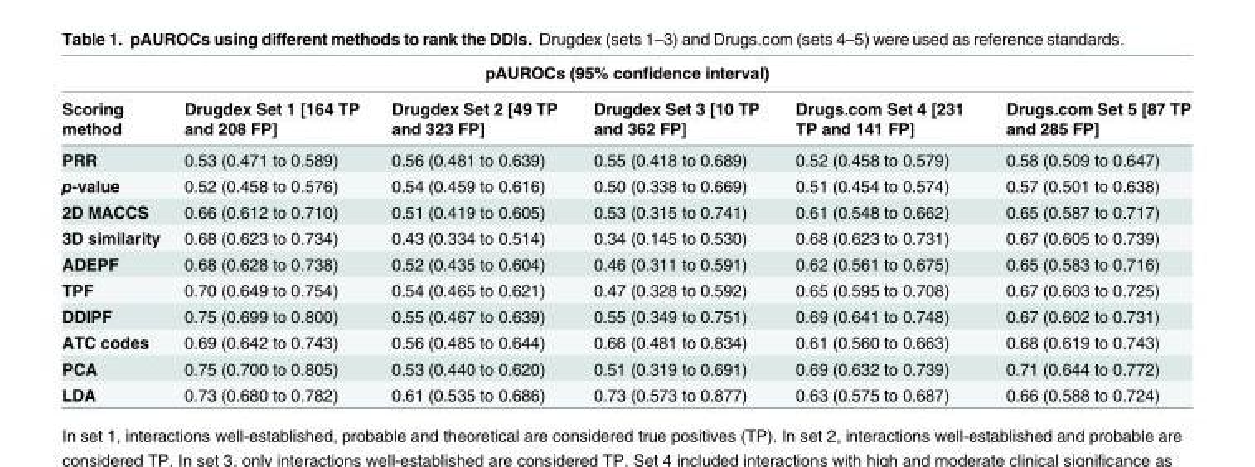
<table><thead><tr><td colspan="6">pAUROCs (95% confidence interval)</td></tr><tr><td>Scoring method</td><td>Drugdex Set 1 [164 TP and 208 FP]</td><td>Drugdex Set 2 [49 TP and 323 FP]</td><td>Drugdex Set 3 [10 TP and 362 FP]</td><td>Drugs.com Set 4 [231 TP and 141 FP]</td><td>Drugs.com Set 5 [87 TP and 285 FP]</td></tr></thead><tbody><tr><td>PRR</td><td>0.53 (0.471 to 0.589)</td><td>0.56 (0.481 to 0.639)</td><td>0.55 (0.418 to 0.689)</td><td>0.52 (0.458 to 0.579)</td><td>0.58 (0.509 to 0.647)</td></tr><tr><td>p-value</td><td>0.52 (0.458 to 0.576)</td><td>0.54 (0.459 to 0.616)</td><td>0.50 (0.338 to 0.669)</td><td>0.51 (0.454 to 0.574)</td><td>0.57 (0.501 to 0.638)</td></tr><tr><td>2D MACCS</td><td>0.66 (0.612 to 0.710)</td><td>0.51 (0.419 to 0.605)</td><td>0.53 (0.315 to 0.741)</td><td>0.61 (0.548 to 0.662)</td><td>0.65 (0.587 to 0.717)</td></tr><tr><td>3D similarity</td><td>0.68 (0.623 to 0.734)</td><td>0.43 (0.334 to 0.514)</td><td>0.34 (0.145 to 0.530)</td><td>0.68 (0.623 to 0.731)</td><td>0.67 (0.605 to 0.739)</td></tr><tr><td>ADEPF</td><td>0.68 (0.628 to 0.738)</td><td>0.52 (0.435 to 0.604)</td><td>0.46 (0.311 to 0.591)</td><td>0.62 (0.561 to 0.675)</td><td>0.65 (0.583 to 0.716)</td></tr><tr><td>TPF</td><td>0.70 (0.649 to 0.754)</td><td>0.54 (0.465 to 0.621)</td><td>0.47 (0.328 to 0.592)</td><td>0.65 (0.595 to 0.708)</td><td>0.67 (0.603 to 0.725)</td></tr><tr><td>DDIPF</td><td>0.75 (0.699 to 0.800)</td><td>0.55 (0.467 to 0.639)</td><td>0.55 (0.349 to 0.751)</td><td>0.69 (0.641 to 0.748)</td><td>0.67 (0.602 to 0.731)</td></tr><tr><td>ATC codes</td><td>0.69 (0.642 to 0.743)</td><td>0.56 (0.485 to 0.644)</td><td>0.66 (0.481 to 0.834)</td><td>0.61 (0.560 to 0.663)</td><td>0.68 (0.619 to 0.743)</td></tr><tr><td>PCA</td><td>0.75 (0.700 to 0.805)</td><td>0.53 (0.440 to 0.620)</td><td>0.51 (0.319 to 0.691)</td><td>0.69 (0.632 to 0.739)</td><td>0.71 (0.644 to 0.772)</td></tr><tr><td>LDA</td><td>0.73 (0.680 to 0.782)</td><td>0.61 (0.535 to 0.686)</td><td>0.73 (0.573 to 0.877)</td><td>0.63 (0.575 to 0.687)</td><td>0.66 (0.588 to 0.724)</td></tr></tbody></table>